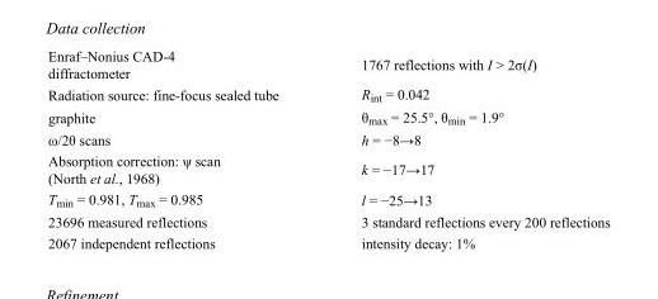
<table><tbody><tr><td>Enraf–Nonius CAD-4 diffractometer</td><td>1767 reflections with I &gt; 2σ(I)</td></tr><tr><td>Radiation source: fine-focus sealed tube</td><td>R<sub>int</sub> = 0.042</td></tr><tr><td>graphite</td><td>θ<sub>max</sub> = 25.5°, θ<sub>min</sub> = 1.9°</td></tr><tr><td>ω/2θ scans</td><td>h = −8→8</td></tr><tr><td>Absorption correction: ψ scan (North et al., 1968)</td><td>k = −17→17</td></tr><tr><td>T<sub>min</sub> = 0.981, T<sub>max</sub> = 0.985</td><td>l = −25→13</td></tr><tr><td>23696 measured reflections</td><td>3 standard reflections every 200 reflections</td></tr><tr><td>2067 independent reflections</td><td>intensity decay: 1%</td></tr></tbody></table>